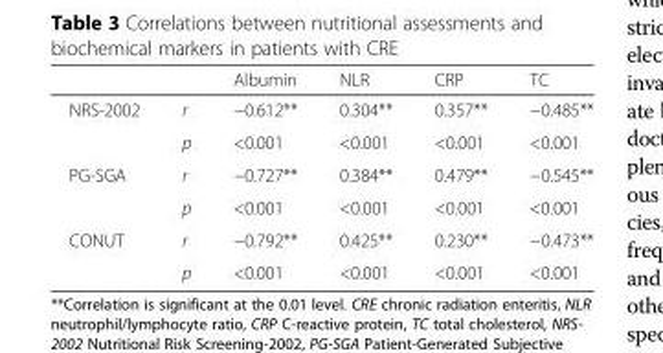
<table><thead><tr><td></td><td></td><td>Albumin</td><td>NLR</td><td>CRP</td><td>TC</td></tr></thead><tbody><tr><td rowspan="2">NRS-2002</td><td>r</td><td>−0.612**</td><td>0.304**</td><td>0.357**</td><td>−0.485**</td></tr><tr><td>p</td><td>&lt;0.001</td><td>&lt;0.001</td><td>&lt;0.001</td><td>&lt;0.001</td></tr><tr><td rowspan="2">PG-SGA</td><td>r</td><td>−0.727**</td><td>0.384**</td><td>0.479**</td><td>−0.545**</td></tr><tr><td>p</td><td>&lt;0.001</td><td>&lt;0.001</td><td>&lt;0.001</td><td>&lt;0.001</td></tr><tr><td rowspan="2">CONUT</td><td>r</td><td>−0.792**</td><td>0.425**</td><td>0.230**</td><td>−0.473**</td></tr><tr><td>p</td><td>&lt;0.001</td><td>&lt;0.001</td><td>&lt;0.001</td><td>&lt;0.001</td></tr></tbody></table>